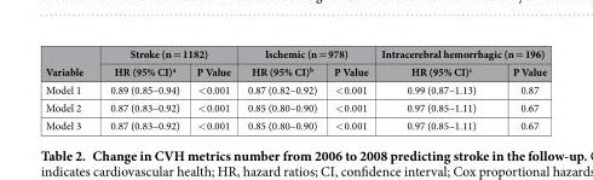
<table><thead><tr><td rowspan="2">Variable</td><td colspan="2">Stroke (n = 1182)</td><td colspan="2">Ischemic (n = 978)</td><td colspan="2">Intracerebral hemorrhagic (n = 196)</td></tr><tr><td>HR (95% CI)<sup>a</sup></td><td>P Value</td><td>HR (95% CI)<sup>b</sup></td><td>P Value</td><td>HR (95% CI)<sup>c</sup></td><td>P Value</td></tr></thead><tbody><tr><td>Model 1</td><td>0.89 (0.85–0.94)</td><td>&lt; 0.001</td><td>0.87 (0.82–0.92)</td><td>&lt; 0.001</td><td>0.99 (0.87–1.13)</td><td>0.87</td></tr><tr><td>Model 2</td><td>0.87 (0.83–0.92)</td><td>&lt; 0.001</td><td>0.85 (0.80–0.90)</td><td>&lt; 0.001</td><td>0.97 (0.85–1.11)</td><td>0.67</td></tr><tr><td>Model 3</td><td>0.87 (0.83–0.92)</td><td>&lt; 0.001</td><td>0.85 (0.80–0.90)</td><td>&lt; 0.001</td><td>0.97 (0.85–1.11)</td><td>0.67</td></tr></tbody></table>